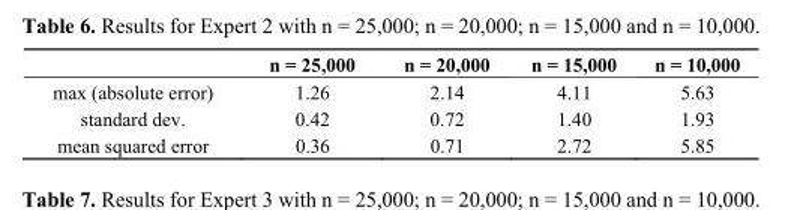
<table><thead><tr><td></td><td>n = 25,000</td><td>n = 20,000</td><td>n = 15,000</td><td>n = 10,000</td></tr></thead><tbody><tr><td>max (absolute error)</td><td>1.26</td><td>2.14</td><td>4.11</td><td>5.63</td></tr><tr><td>standard dev.</td><td>0.42</td><td>0.72</td><td>1.40</td><td>1.93</td></tr><tr><td>mean squared error</td><td>0.36</td><td>0.71</td><td>2.72</td><td>5.85</td></tr></tbody></table>